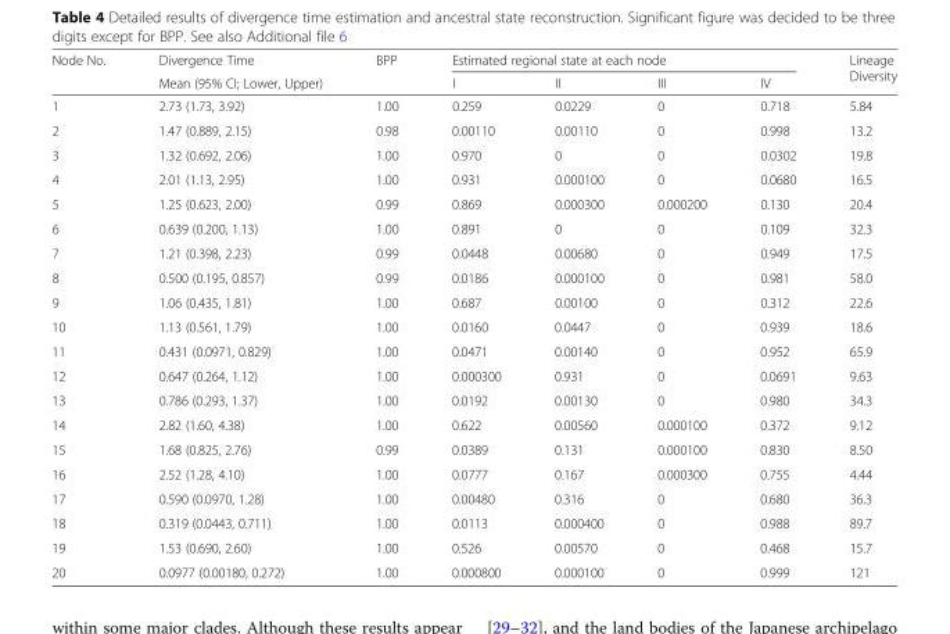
<table><thead><tr><td rowspan="2">Node No.</td><td rowspan="2">Divergence Time Mean (95% CI; Lower, Upper)</td><td rowspan="2">BPP</td><td colspan="4">Estimated regional state at each node</td><td rowspan="2">Lineage Diversity</td></tr><tr><td>I</td><td>II</td><td>III</td><td>IV</td></tr></thead><tbody><tr><td>1</td><td>2.73 (1.73, 3.92)</td><td>1.00</td><td>0.259</td><td>0.0229</td><td>0</td><td>0.718</td><td>5.84</td></tr><tr><td>2</td><td>1.47 (0.889, 2.15)</td><td>0.98</td><td>0.00110</td><td>0.00110</td><td>0</td><td>0.998</td><td>13.2</td></tr><tr><td>3</td><td>1.32 (0.692, 2.06)</td><td>1.00</td><td>0.970</td><td>0</td><td>0</td><td>0.0302</td><td>19.8</td></tr><tr><td>4</td><td>2.01 (1.13, 2.95)</td><td>1.00</td><td>0.931</td><td>0.000100</td><td>0</td><td>0.0680</td><td>16.5</td></tr><tr><td>5</td><td>1.25 (0.623, 2.00)</td><td>0.99</td><td>0.869</td><td>0.000300</td><td>0.000200</td><td>0.130</td><td>20.4</td></tr><tr><td>6</td><td>0.639 (0.200, 1.13)</td><td>1.00</td><td>0.891</td><td>0</td><td>0</td><td>0.109</td><td>32.3</td></tr><tr><td>7</td><td>1.21 (0.398, 2.23)</td><td>0.99</td><td>0.0448</td><td>0.00680</td><td>0</td><td>0.949</td><td>17.5</td></tr><tr><td>8</td><td>0.500 (0.195, 0.857)</td><td>0.99</td><td>0.0186</td><td>0.000100</td><td>0</td><td>0.981</td><td>58.0</td></tr><tr><td>9</td><td>1.06 (0.435, 1.81)</td><td>1.00</td><td>0.687</td><td>0.00100</td><td>0</td><td>0.312</td><td>22.6</td></tr><tr><td>10</td><td>1.13 (0.561, 1.79)</td><td>1.00</td><td>0.0160</td><td>0.0447</td><td>0</td><td>0.939</td><td>18.6</td></tr><tr><td>11</td><td>0.431 (0.0971, 0.829)</td><td>1.00</td><td>0.0471</td><td>0.00140</td><td>0</td><td>0.952</td><td>65.9</td></tr><tr><td>12</td><td>0.647 (0.264, 1.12)</td><td>1.00</td><td>0.000300</td><td>0.931</td><td>0</td><td>0.0691</td><td>9.63</td></tr><tr><td>13</td><td>0.786 (0.293, 1.37)</td><td>1.00</td><td>0.0192</td><td>0.00130</td><td>0</td><td>0.980</td><td>34.3</td></tr><tr><td>14</td><td>2.82 (1.60, 4.38)</td><td>1.00</td><td>0.622</td><td>0.00560</td><td>0.000100</td><td>0.372</td><td>9.12</td></tr><tr><td>15</td><td>1.68 (0.825, 2.76)</td><td>0.99</td><td>0.0389</td><td>0.131</td><td>0.000100</td><td>0.830</td><td>8.50</td></tr><tr><td>16</td><td>2.52 (1.28, 4.10)</td><td>1.00</td><td>0.0777</td><td>0.167</td><td>0.000300</td><td>0.755</td><td>4.44</td></tr><tr><td>17</td><td>0.590 (0.0970, 1.28)</td><td>1.00</td><td>0.00480</td><td>0.316</td><td>0</td><td>0.680</td><td>36.3</td></tr><tr><td>18</td><td>0.319 (0.0443, 0.711)</td><td>1.00</td><td>0.0113</td><td>0.000400</td><td>0</td><td>0.988</td><td>89.7</td></tr><tr><td>19</td><td>1.53 (0.690, 2.60)</td><td>1.00</td><td>0.526</td><td>0.00570</td><td>0</td><td>0.468</td><td>15.7</td></tr><tr><td>20</td><td>0.0977 (0.00180, 0.272)</td><td>1.00</td><td>0.000800</td><td>0.000100</td><td>0</td><td>0.999</td><td>121</td></tr></tbody></table>